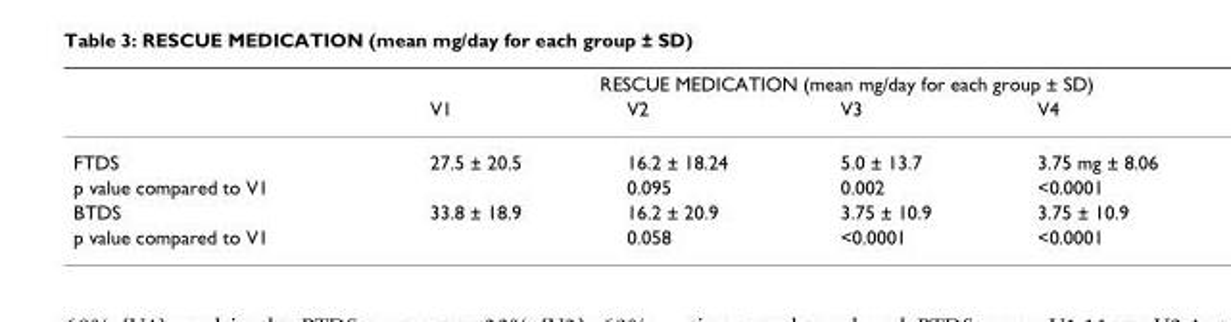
<table><thead><tr><td rowspan="2"></td><td colspan="4">RESCUE MEDICATION (mean mg/day for each group ± SD)</td></tr><tr><td>V1</td><td>V2</td><td>V3</td><td>V4</td></tr></thead><tbody><tr><td>FTDS</td><td>27.5 ± 20.5</td><td>16.2 ± 18.24</td><td>5.0 ± 13.7</td><td>3.75 mg ± 8.06</td></tr><tr><td>p value compared to V1</td><td></td><td>0.095</td><td>0.002</td><td>&lt;0.0001</td></tr><tr><td>BTDS</td><td>33.8 ± 18.9</td><td>16.2 ± 20.9</td><td>3.75 ± 10.9</td><td>3.75 ± 10.9</td></tr><tr><td>p value compared to V1</td><td></td><td>0.058</td><td>&lt;0.0001</td><td>&lt;0.0001</td></tr></tbody></table>